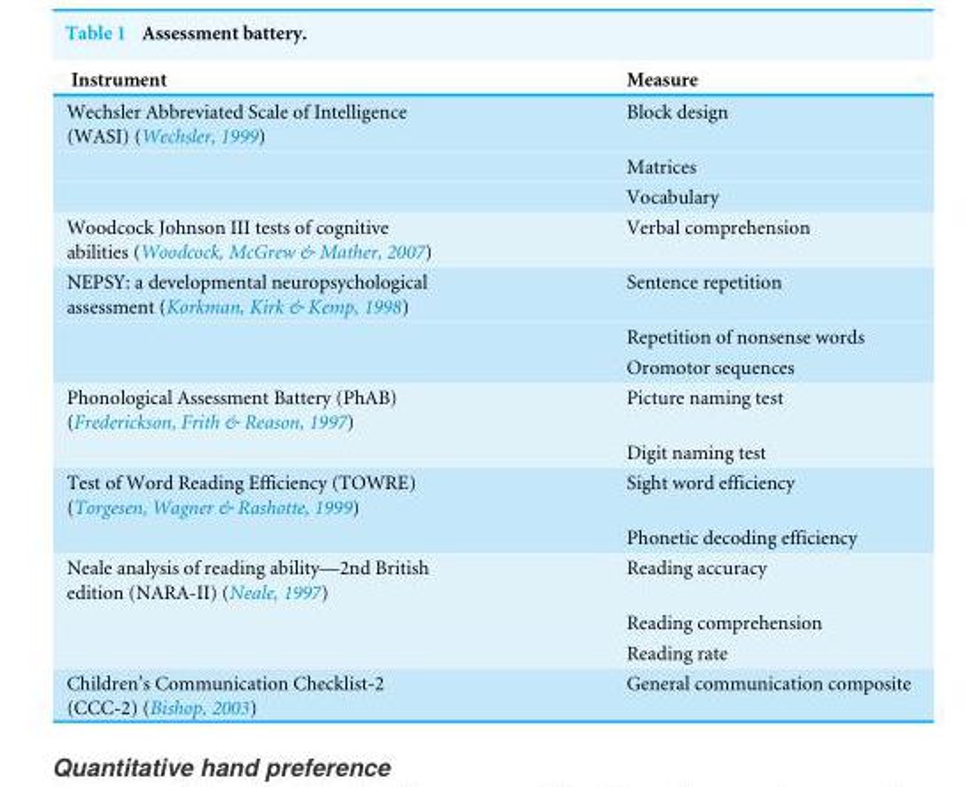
<table><thead><tr><td>Instrument</td><td>Measure</td></tr></thead><tbody><tr><td rowspan="3">Wechsler Abbreviated Scale of Intelligence (WASI) (Wechsler, 1999)</td><td>Block design</td></tr><tr><td>Matrices</td></tr><tr><td>Vocabulary</td></tr><tr><td>Woodcock Johnson III tests of cognitive abilities (Woodcock, McGrew &amp; Mather, 2007)</td><td>Verbal comprehension</td></tr><tr><td rowspan="3">NEPSY: a developmental neuropsychological assessment (Korkman, Kirk &amp; Kemp, 1998)</td><td>Sentence repetition</td></tr><tr><td>Repetition of nonsense words</td></tr><tr><td>Oromotor sequences</td></tr><tr><td rowspan="2">Phonological Assessment Battery (PhAB) (Frederickson, Frith &amp; Reason, 1997)</td><td>Picture naming test</td></tr><tr><td>Digit naming test</td></tr><tr><td rowspan="2">Test of Word Reading Efficiency (TOWRE) (Torgesen, Wagner &amp; Rashotte, 1999)</td><td>Sight word efficiency</td></tr><tr><td>Phonetic decoding efficiency</td></tr><tr><td rowspan="3">Neale analysis of reading ability—2nd British edition (NARA-II) (Neale, 1997)</td><td>Reading accuracy</td></tr><tr><td>Reading comprehension</td></tr><tr><td>Reading rate</td></tr><tr><td>Children’s Communication Checklist-2 (CCC-2) (Bishop, 2003)</td><td>General communication composite</td></tr></tbody></table>